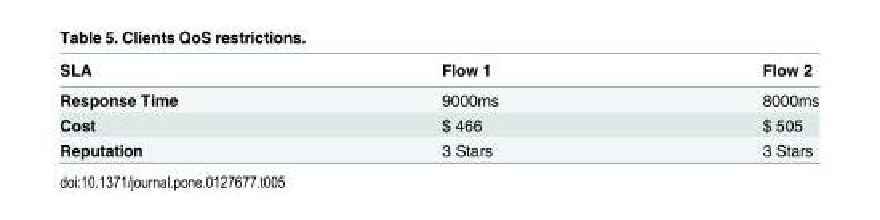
<table><thead><tr><td>SLA</td><td>Flow 1</td><td>Flow 2</td></tr></thead><tbody><tr><td>Response Time</td><td>9000ms</td><td>8000ms</td></tr><tr><td>Cost</td><td>$ 466</td><td>$ 505</td></tr><tr><td>Reputation</td><td>3 Stars</td><td>3 Stars</td></tr></tbody></table>